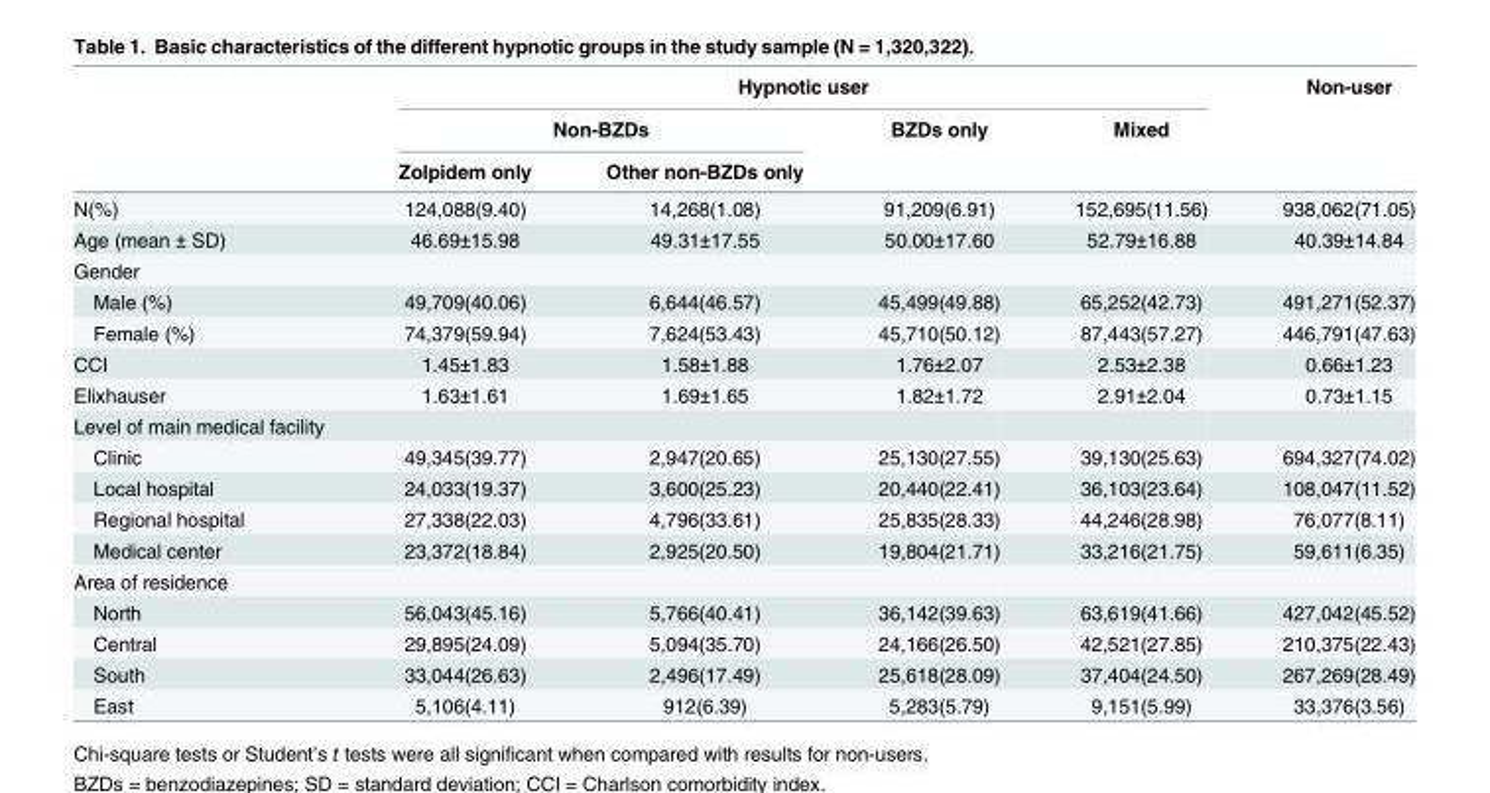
<table><thead><tr><td rowspan="3"></td><td colspan="4">Hypnotic user</td><td rowspan="3">Non-user</td></tr><tr><td colspan="2">Non-BZDs</td><td rowspan="2">BZDs only</td><td rowspan="2">Mixed</td></tr><tr><td>Zolpidem only</td><td>Other non-BZDs only</td></tr></thead><tbody><tr><td>N(%)</td><td>124,088(9.40)</td><td>14,268(1.08)</td><td>91,209(6.91)</td><td>152,695(11.56)</td><td>938,062(71.05)</td></tr><tr><td>Age (mean ± SD)</td><td>46.69±15.98</td><td>49.31±17.55</td><td>50.00±17.60</td><td>52.79±16.88</td><td>40.39±14.84</td></tr><tr><td colspan="6">Gender</td></tr><tr><td>Male (%)</td><td>49,709(40.06)</td><td>6,644(46.57)</td><td>45,499(49.88)</td><td>65,252(42.73)</td><td>491,271(52.37)</td></tr><tr><td>Female (%)</td><td>74,379(59.94)</td><td>7,624(53.43)</td><td>45,710(50.12)</td><td>87,443(57.27)</td><td>446,791(47.63)</td></tr><tr><td>CCI</td><td>1.45±1.83</td><td>1.58±1.88</td><td>1.76±2.07</td><td>2.53±2.38</td><td>0.66±1.23</td></tr><tr><td>Elixhauser</td><td>1.63±1.61</td><td>1.69±1.65</td><td>1.82±1.72</td><td>2.91±2.04</td><td>0.73±1.15</td></tr><tr><td colspan="6">Level of main medical facility</td></tr><tr><td>Clinic</td><td>49,345(39.77)</td><td>2,947(20.65)</td><td>25,130(27.55)</td><td>39,130(25.63)</td><td>694,327(74.02)</td></tr><tr><td>Local hospital</td><td>24,033(19.37)</td><td>3,600(25.23)</td><td>20,440(22.41)</td><td>36,103(23.64)</td><td>108,047(11.52)</td></tr><tr><td>Regional hospital</td><td>27,338(22.03)</td><td>4,796(33.61)</td><td>25,835(28.33)</td><td>44,246(28.98)</td><td>76,077(8.11)</td></tr><tr><td>Medical center</td><td>23,372(18.84)</td><td>2,925(20.50)</td><td>19,804(21.71)</td><td>33,216(21.75)</td><td>59,611(6.35)</td></tr><tr><td colspan="6">Area of residence</td></tr><tr><td>North</td><td>56,043(45.16)</td><td>5,766(40.41)</td><td>36,142(39.63)</td><td>63,619(41.66)</td><td>427,042(45.52)</td></tr><tr><td>Central</td><td>29,895(24.09)</td><td>5,094(35.70)</td><td>24,166(26.50)</td><td>42,521(27.85)</td><td>210,375(22.43)</td></tr><tr><td>South</td><td>33,044(26.63)</td><td>2,496(17.49)</td><td>25,618(28.09)</td><td>37,404(24.50)</td><td>267,269(28.49)</td></tr><tr><td>East</td><td>5,106(4.11)</td><td>912(6.39)</td><td>5,283(5.79)</td><td>9,151(5.99)</td><td>33,376(3.56)</td></tr></tbody></table>